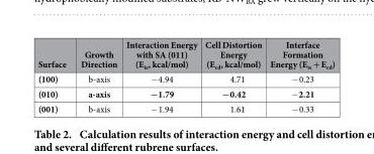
<table><thead><tr><td>Surface</td><td>Growth Direction</td><td>Interaction Energy with SA (011) (E<sub>ie</sub>, kcal/mol)</td><td>Cell Distortion Energy (E<sub>cd</sub>, kcal/mol)</td><td>Interface Formation Energy (E<sub>ie</sub> + E<sub>cd</sub>)</td></tr></thead><tbody><tr><td>(100)</td><td>b-axis</td><td>− 4.94</td><td>4.71</td><td>− 0.23</td></tr><tr><td>(010)</td><td>a-axis</td><td>−1.79</td><td>−0.42</td><td>− 2.21</td></tr><tr><td>(001)</td><td>b-axis</td><td>− 1.94</td><td>1.61</td><td>− 0.33</td></tr></tbody></table>